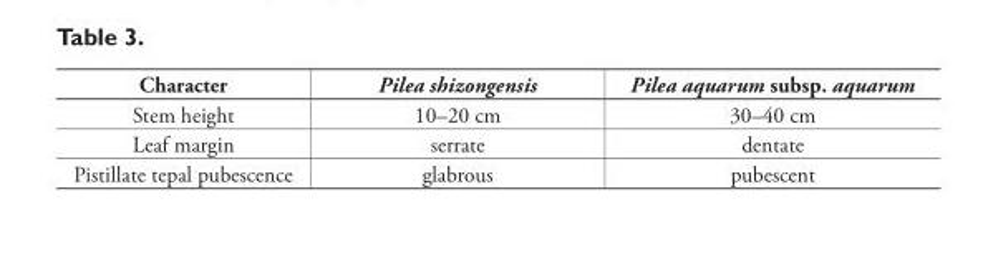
<table><thead><tr><td>Character</td><td>Pilea shizongensis</td><td>Pilea aquarum subsp. aquarum</td></tr></thead><tbody><tr><td>Stem height</td><td>10–20 cm</td><td>30–40 cm</td></tr><tr><td>Leaf margin</td><td>serrate</td><td>dentate</td></tr><tr><td>Pistillate tepal pubescence</td><td>glabrous</td><td>pubescent</td></tr></tbody></table>